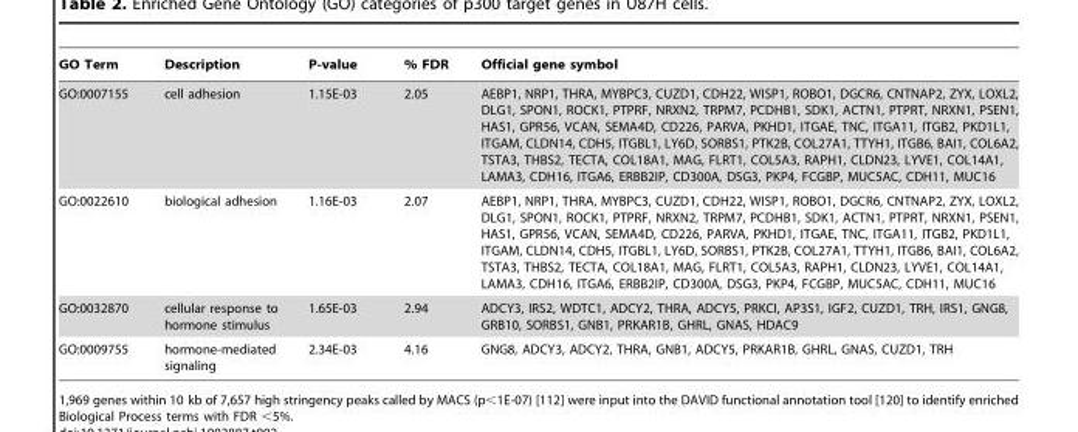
<table><thead><tr><td>GO Term</td><td>Description</td><td>P-value</td><td>% FDR</td><td>Official gene symbol</td></tr></thead><tbody><tr><td>GO:0007155</td><td>cell adhesion</td><td>1.15E-03</td><td>2.05</td><td>AEBP1, NRP1, THRA, MYBPC3, CUZD1, CDH22, WISP1, ROBO1, DGCR6, CNTNAP2, ZYX, LOXL2, DLG1, SPON1, ROCK1, PTPRF, NRXN2, TRPM7, PCDHB1, SDK1, ACTN1, PTPRT, NRXN1, PSEN1, HAS1, GPR56, VCAN, SEMA4D, CD226, PARVA, PKHD1, ITGAE, TNC, ITGA11, ITGB2, PKD1L1, ITGAM, CLDN14, CDH5, ITGBL1, LY6D, SORBS1, PTK2B, COL27A1, TTYH1, ITGB6, BAI1, COL6A2, TSTA3, THBS2, TECTA, COL18A1, MAG, FLRT1, COL5A3, RAPH1, CLDN23, LYVE1, COL14A1, LAMA3, CDH16, ITGA6, ERBB2IP, CD300A, DSG3, PKP4, FCGBP, MUC5AC, CDH11, MUC16</td></tr><tr><td>GO:0022610</td><td>biological adhesion</td><td>1.16E-03</td><td>2.07</td><td>AEBP1, NRP1, THRA, MYBPC3, CUZD1, CDH22, WISP1, ROBO1, DGCR6, CNTNAP2, ZYX, LOXL2, DLG1, SPON1, ROCK1, PTPRF, NRXN2, TRPM7, PCDHB1, SDK1, ACTN1, PTPRT, NRXN1, PSEN1, HAS1, GPR56, VCAN, SEMA4D, CD226, PARVA, PKHD1, ITGAE, TNC, ITGA11, ITGB2, PKD1L1, ITGAM, CLDN14, CDH5, ITGBL1, LY6D, SORBS1, PTK2B, COL27A1, TTYH1, ITGB6, BAI1, COL6A2, TSTA3, THBS2, TECTA, COL18A1, MAG, FLRT1, COL5A3, RAPH1, CLDN23, LYVE1, COL14A1, LAMA3, CDH16, ITGA6, ERBB2IP, CD300A, DSG3, PKP4, FCGBP, MUC5AC, CDH11, MUC16</td></tr><tr><td>GO:0032870</td><td>cellular response to hormone stimulus</td><td>1.65E-03</td><td>2.94</td><td>ADCY3, IRS2, WDTC1, ADCY2, THRA, ADCY5, PRKCI, AP3S1, IGF2, CUZD1, TRH, IRS1, GNG8, GRB10, SORBS1, GNB1, PRKAR1B, GHRL, GNAS, HDAC9</td></tr><tr><td>GO:0009755</td><td>hormone-mediated signaling</td><td>2.34E-03</td><td>4.16</td><td>GNG8, ADCY3, ADCY2, THRA, GNB1, ADCY5, PRKAR1B, GHRL, GNAS, CUZD1, TRH</td></tr></tbody></table>